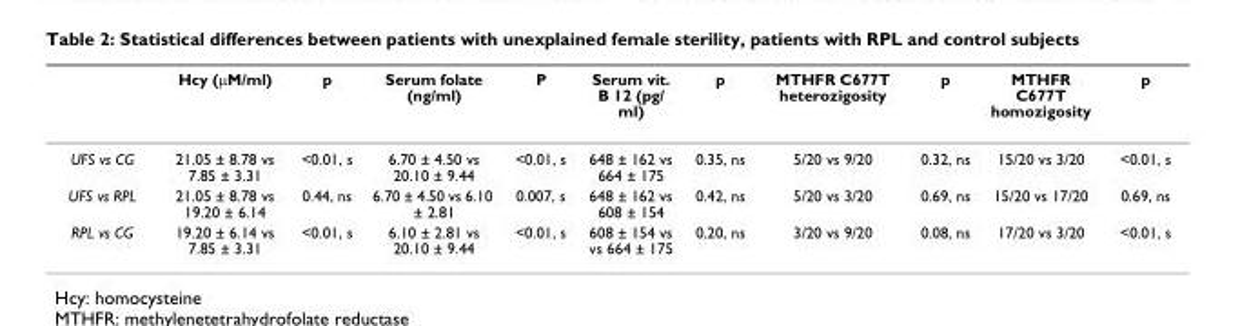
<table><thead><tr><td></td><td>Hcy (μM/ml)</td><td>p</td><td>Serum folate (ng/ml)</td><td>P</td><td>Serum vit. B 12 (pg/ ml)</td><td>p</td><td>MTHFR C677T heterozigosity</td><td>p</td><td>MTHFR C677T homozigosity</td><td>p</td></tr></thead><tbody><tr><td>UFS vs CG</td><td>21.05 ± 8.78 vs 7.85 ± 3.31</td><td>&lt;0.01, s</td><td>6.70 ± 4.50 vs 20.10 ± 9.44</td><td>&lt;0.01, s</td><td>648 ± 162 vs 664 ± 175</td><td>0.35, ns</td><td>5/20 vs 9/20</td><td>0.32, ns</td><td>15/20 vs 3/20</td><td>&lt;0.01, s</td></tr><tr><td>UFS vs RPL</td><td>21.05 ± 8.78 vs 19.20 ± 6.14</td><td>0.44, ns</td><td>6.70 ± 4.50 vs 6.10 ± 2.81</td><td>0.007, s</td><td>648 ± 162 vs 608 ± 154</td><td>0.42, ns</td><td>5/20 vs 3/20</td><td>0.69, ns</td><td>15/20 vs 17/20</td><td>0.69, ns</td></tr><tr><td>RPL vs CG</td><td>19.20 ± 6.14 vs 7.85 ± 3.31</td><td>&lt;0.01, s</td><td>6.10 ± 2.81 vs 20.10 ± 9.44</td><td>&lt;0.01, s</td><td>608 ± 154 vs vs 664 ± 175</td><td>0.20, ns</td><td>3/20 vs 9/20</td><td>0.08, ns</td><td>17/20 vs 3/20</td><td>&lt;0.01, s</td></tr></tbody></table>